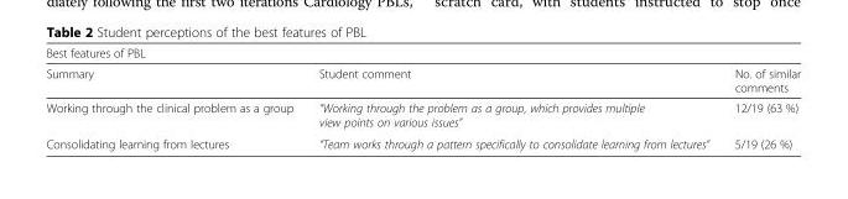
<table><thead><tr><td colspan="3">Best features of PBL</td></tr><tr><td>Summary</td><td>Student comment</td><td>No. of similar comments</td></tr></thead><tbody><tr><td>Working through the clinical problem as a group</td><td>“Working through the problem as a group, which provides multiple view points on various issues”</td><td>12/19 (63 %)</td></tr><tr><td>Consolidating learning from lectures</td><td>“Team works through a pattern specifically to consolidate learning from lectures”</td><td>5/19 (26 %)</td></tr></tbody></table>